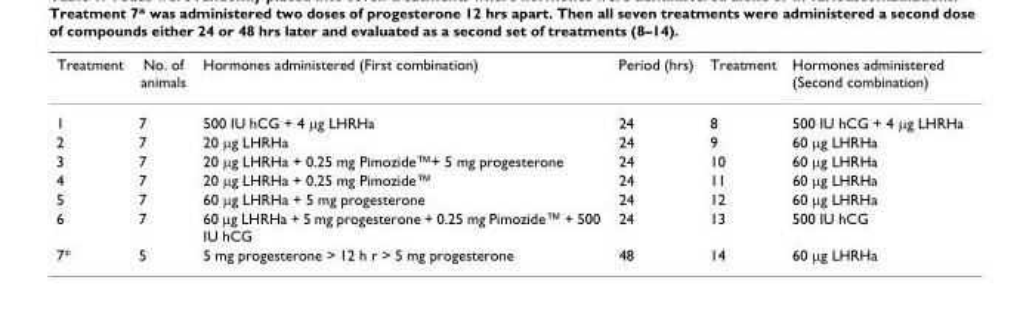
<table><thead><tr><td>Treatment</td><td>No. of animals</td><td>Hormones administered (First combination)</td><td>Period (hrs)</td><td>Treatment</td><td>Hormones administered (Second combination)</td></tr></thead><tbody><tr><td>1</td><td>7</td><td>500 IU hCG + 4 µg LHRHa</td><td>24</td><td>8</td><td>500 IU hCG + 4 µg LHRHa</td></tr><tr><td>2</td><td>7</td><td>20 µg LHRHa</td><td>24</td><td>9</td><td>60 µg LHRHa</td></tr><tr><td>3</td><td>7</td><td>20 µg LHRHa + 0.25 mg Pimozide™+ 5 mg progesterone</td><td>24</td><td>10</td><td>60 µg LHRHa</td></tr><tr><td>4</td><td>7</td><td>20 µg LHRHa + 0.25 mg Pimozide™</td><td>24</td><td>11</td><td>60 µg LHRHa</td></tr><tr><td>5</td><td>7</td><td>60 µg LHRHa + 5 mg progesterone</td><td>24</td><td>12</td><td>60 µg LHRHa</td></tr><tr><td>6</td><td>7</td><td>60 µg LHRHa + 5 mg progesterone + 0.25 mg Pimozide™ + 500 IU hCG</td><td>24</td><td>13</td><td>500 IU hCG</td></tr><tr><td>7*</td><td>5</td><td>5 mg progesterone &gt; 12 h r &gt; 5 mg progesterone</td><td>48</td><td>14</td><td>60 µg LHRHa</td></tr></tbody></table>